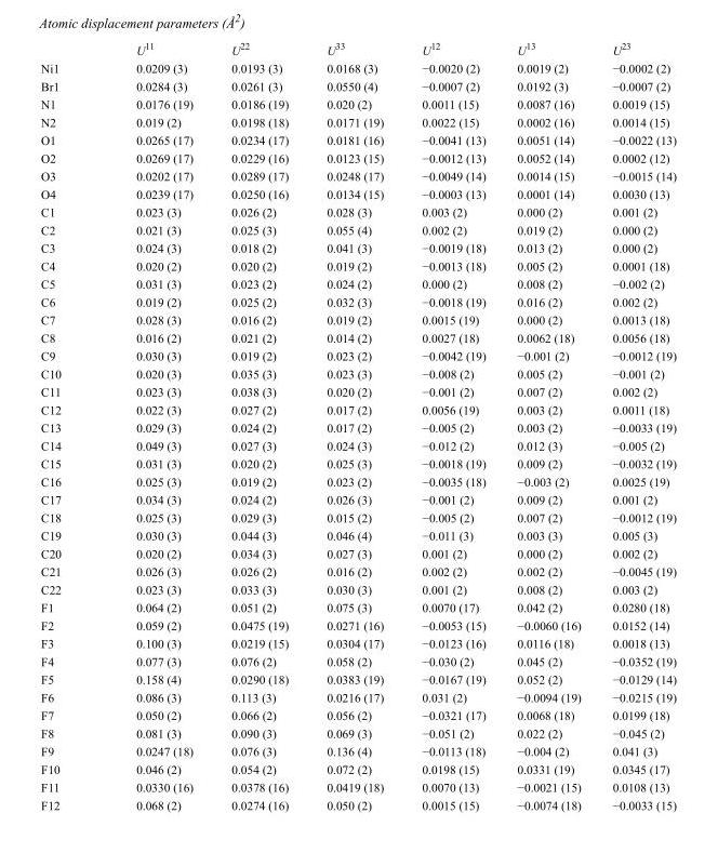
<table><thead><tr><td></td><td>U<sup>11</sup></td><td>U<sup>22</sup></td><td>U<sup>33</sup></td><td>U<sup>12</sup></td><td>U<sup>13</sup></td><td>U<sup>23</sup></td></tr></thead><tbody><tr><td>Ni1</td><td>0.0209 (3)</td><td>0.0193 (3)</td><td>0.0168 (3)</td><td>−0.0020 (2)</td><td>0.0019 (2)</td><td>−0.0002 (2)</td></tr><tr><td>Br1</td><td>0.0284 (3)</td><td>0.0261 (3)</td><td>0.0550 (4)</td><td>−0.0007 (2)</td><td>0.0192 (3)</td><td>−0.0007 (2)</td></tr><tr><td>N1</td><td>0.0176 (19)</td><td>0.0186 (19)</td><td>0.020 (2)</td><td>0.0011 (15)</td><td>0.0087 (16)</td><td>0.0019 (15)</td></tr><tr><td>N2</td><td>0.019 (2)</td><td>0.0198 (18)</td><td>0.0171 (19)</td><td>0.0022 (15)</td><td>0.0002 (16)</td><td>0.0014 (15)</td></tr><tr><td>O1</td><td>0.0265 (17)</td><td>0.0234 (17)</td><td>0.0181 (16)</td><td>−0.0041 (13)</td><td>0.0051 (14)</td><td>−0.0022 (13)</td></tr><tr><td>O2</td><td>0.0269 (17)</td><td>0.0229 (16)</td><td>0.0123 (15)</td><td>−0.0012 (13)</td><td>0.0052 (14)</td><td>0.0002 (12)</td></tr><tr><td>O3</td><td>0.0202 (17)</td><td>0.0289 (17)</td><td>0.0248 (17)</td><td>−0.0049 (14)</td><td>0.0014 (15)</td><td>−0.0015 (14)</td></tr><tr><td>O4</td><td>0.0239 (17)</td><td>0.0250 (16)</td><td>0.0134 (15)</td><td>−0.0003 (13)</td><td>0.0001 (14)</td><td>0.0030 (13)</td></tr><tr><td>C1</td><td>0.023 (3)</td><td>0.026 (2)</td><td>0.028 (3)</td><td>0.003 (2)</td><td>0.000 (2)</td><td>0.001 (2)</td></tr><tr><td>C2</td><td>0.021 (3)</td><td>0.025 (3)</td><td>0.055 (4)</td><td>0.002 (2)</td><td>0.019 (2)</td><td>0.000 (2)</td></tr><tr><td>C3</td><td>0.024 (3)</td><td>0.018 (2)</td><td>0.041 (3)</td><td>−0.0019 (18)</td><td>0.013 (2)</td><td>0.000 (2)</td></tr><tr><td>C4</td><td>0.020 (2)</td><td>0.020 (2)</td><td>0.019 (2)</td><td>−0.0013 (18)</td><td>0.005 (2)</td><td>0.0001 (18)</td></tr><tr><td>C5</td><td>0.031 (3)</td><td>0.023 (2)</td><td>0.024 (2)</td><td>0.000 (2)</td><td>0.008 (2)</td><td>−0.002 (2)</td></tr><tr><td>C6</td><td>0.019 (2)</td><td>0.025 (2)</td><td>0.032 (3)</td><td>−0.0018 (19)</td><td>0.016 (2)</td><td>0.002 (2)</td></tr><tr><td>C7</td><td>0.028 (3)</td><td>0.016 (2)</td><td>0.019 (2)</td><td>0.0015 (19)</td><td>0.000 (2)</td><td>0.0013 (18)</td></tr><tr><td>C8</td><td>0.016 (2)</td><td>0.021 (2)</td><td>0.014 (2)</td><td>0.0027 (18)</td><td>0.0062 (18)</td><td>0.0056 (18)</td></tr><tr><td>C9</td><td>0.030 (3)</td><td>0.019 (2)</td><td>0.023 (2)</td><td>−0.0042 (19)</td><td>−0.001 (2)</td><td>−0.0012 (19)</td></tr><tr><td>C10</td><td>0.020 (3)</td><td>0.035 (3)</td><td>0.023 (3)</td><td>−0.008 (2)</td><td>0.005 (2)</td><td>−0.001 (2)</td></tr><tr><td>C11</td><td>0.023 (3)</td><td>0.038 (3)</td><td>0.020 (2)</td><td>−0.001 (2)</td><td>0.007 (2)</td><td>0.002 (2)</td></tr><tr><td>C12</td><td>0.022 (3)</td><td>0.027 (2)</td><td>0.017 (2)</td><td>0.0056 (19)</td><td>0.003 (2)</td><td>0.0011 (18)</td></tr><tr><td>C13</td><td>0.029 (3)</td><td>0.024 (2)</td><td>0.017 (2)</td><td>−0.005 (2)</td><td>0.003 (2)</td><td>−0.0033 (19)</td></tr><tr><td>C14</td><td>0.049 (3)</td><td>0.027 (3)</td><td>0.024 (3)</td><td>−0.012 (2)</td><td>0.012 (3)</td><td>−0.005 (2)</td></tr><tr><td>C15</td><td>0.031 (3)</td><td>0.020 (2)</td><td>0.025 (3)</td><td>−0.0018 (19)</td><td>0.009 (2)</td><td>−0.0032 (19)</td></tr><tr><td>C16</td><td>0.025 (3)</td><td>0.019 (2)</td><td>0.023 (2)</td><td>−0.0035 (18)</td><td>−0.003 (2)</td><td>0.0025 (19)</td></tr><tr><td>C17</td><td>0.034 (3)</td><td>0.024 (2)</td><td>0.026 (3)</td><td>−0.001 (2)</td><td>0.009 (2)</td><td>0.001 (2)</td></tr><tr><td>C18</td><td>0.025 (3)</td><td>0.029 (3)</td><td>0.015 (2)</td><td>−0.005 (2)</td><td>0.007 (2)</td><td>−0.0012 (19)</td></tr><tr><td>C19</td><td>0.030 (3)</td><td>0.044 (3)</td><td>0.046 (4)</td><td>−0.011 (3)</td><td>0.003 (3)</td><td>0.005 (3)</td></tr><tr><td>C20</td><td>0.020 (2)</td><td>0.034 (3)</td><td>0.027 (3)</td><td>0.001 (2)</td><td>0.000 (2)</td><td>0.002 (2)</td></tr><tr><td>C21</td><td>0.026 (3)</td><td>0.026 (2)</td><td>0.016 (2)</td><td>0.002 (2)</td><td>0.002 (2)</td><td>−0.0045 (19)</td></tr><tr><td>C22</td><td>0.023 (3)</td><td>0.033 (3)</td><td>0.030 (3)</td><td>0.001 (2)</td><td>0.008 (2)</td><td>0.003 (2)</td></tr><tr><td>F1</td><td>0.064 (2)</td><td>0.051 (2)</td><td>0.075 (3)</td><td>0.0070 (17)</td><td>0.042 (2)</td><td>0.0280 (18)</td></tr><tr><td>F2</td><td>0.059 (2)</td><td>0.0475 (19)</td><td>0.0271 (16)</td><td>−0.0053 (15)</td><td>−0.0060 (16)</td><td>0.0152 (14)</td></tr><tr><td>F3</td><td>0.100 (3)</td><td>0.0219 (15)</td><td>0.0304 (17)</td><td>−0.0123 (16)</td><td>0.0116 (18)</td><td>0.0018 (13)</td></tr><tr><td>F4</td><td>0.077 (3)</td><td>0.076 (2)</td><td>0.058 (2)</td><td>−0.030 (2)</td><td>0.045 (2)</td><td>−0.0352 (19)</td></tr><tr><td>F5</td><td>0.158 (4)</td><td>0.0290 (18)</td><td>0.0383 (19)</td><td>−0.0167 (19)</td><td>0.052 (2)</td><td>−0.0129 (14)</td></tr><tr><td>F6</td><td>0.086 (3)</td><td>0.113 (3)</td><td>0.0216 (17)</td><td>0.031 (2)</td><td>−0.0094 (19)</td><td>−0.0215 (19)</td></tr><tr><td>F7</td><td>0.050 (2)</td><td>0.066 (2)</td><td>0.056 (2)</td><td>−0.0321 (17)</td><td>0.0068 (18)</td><td>0.0199 (18)</td></tr><tr><td>F8</td><td>0.081 (3)</td><td>0.090 (3)</td><td>0.069 (3)</td><td>−0.051 (2)</td><td>0.022 (2)</td><td>−0.045 (2)</td></tr><tr><td>F9</td><td>0.0247 (18)</td><td>0.076 (3)</td><td>0.136 (4)</td><td>−0.0113 (18)</td><td>−0.004 (2)</td><td>0.041 (3)</td></tr><tr><td>F10</td><td>0.046 (2)</td><td>0.054 (2)</td><td>0.072 (2)</td><td>0.0198 (15)</td><td>0.0331 (19)</td><td>0.0345 (17)</td></tr><tr><td>F11</td><td>0.0330 (16)</td><td>0.0378 (16)</td><td>0.0419 (18)</td><td>0.0070 (13)</td><td>−0.0021 (15)</td><td>0.0108 (13)</td></tr><tr><td>F12</td><td>0.068 (2)</td><td>0.0274 (16)</td><td>0.050 (2)</td><td>0.0015 (15)</td><td>−0.0074 (18)</td><td>−0.0033 (15)</td></tr></tbody></table>